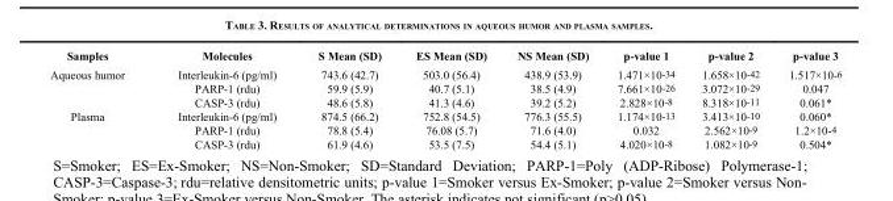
<table><thead><tr><td>Samples</td><td>Molecules</td><td>S Mean (SD)</td><td>ES Mean (SD)</td><td>NS Mean (SD)</td><td>p-value 1</td><td>p-value 2</td><td>p-value 3</td></tr></thead><tbody><tr><td rowspan="3">Aqueous humor</td><td>Interleukin-6 (pg/ml)</td><td>743.6 (42.7)</td><td>503.0 (56.4)</td><td>438.9 (53.9)</td><td>1.471×10<sup>-34</sup></td><td>1.658×10<sup>-42</sup></td><td>1.517×10-<sup>6</sup></td></tr><tr><td>PARP-1 (rdu)</td><td>59.9 (5.9)</td><td>40.7 (5.1)</td><td>38.5 (4.9)</td><td>7.661×10<sup>-26</sup></td><td>3.072×10<sup>-29</sup></td><td>0.047</td></tr><tr><td>CASP-3 (rdu)</td><td>48.6 (5.8)</td><td>41.3 (4.6)</td><td>39.2 (5.2)</td><td>2.828×10<sup>-8</sup></td><td>8.318×10<sup>-11</sup></td><td>0.061*</td></tr><tr><td rowspan="3">Plasma</td><td>Interleukin-6 (pg/ml)</td><td>874.5 (66.2)</td><td>752.8 (54.5)</td><td>776.3 (55.5)</td><td>1.174×10<sup>-13</sup></td><td>3.413×10<sup>-10</sup></td><td>0.060*</td></tr><tr><td>PARP-1 (rdu)</td><td>78.8 (5.4)</td><td>76.08 (5.7)</td><td>71.6 (4.0)</td><td>0.032</td><td>2.562×10<sup>-9</sup></td><td>1.2×10-<sup>4</sup></td></tr><tr><td>CASP-3 (rdu)</td><td>61.9 (4.6)</td><td>53.5 (7.5)</td><td>54.4 (5.1)</td><td>4.020×10<sup>-8</sup></td><td>1.082×10<sup>-9</sup></td><td>0.504*</td></tr></tbody></table>